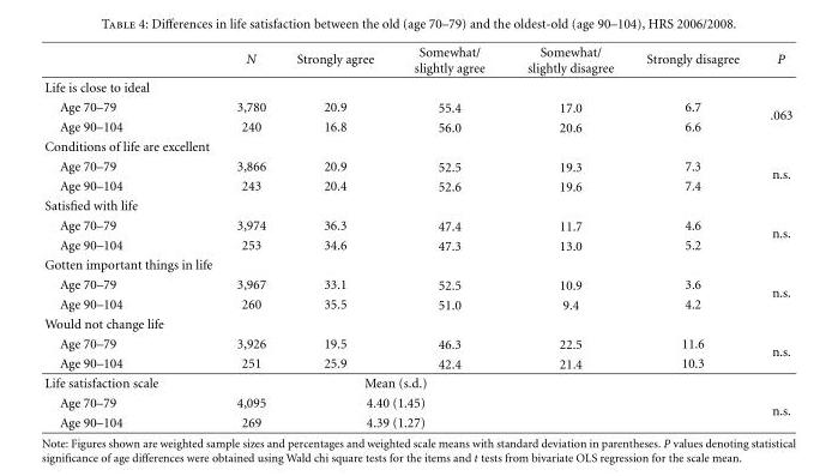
<table><thead><tr><td></td><td>N</td><td>Strongly agree</td><td>Somewhat/ slightly agree</td><td>Somewhat/ slightly disagree</td><td>Strongly disagree</td><td>P</td></tr></thead><tbody><tr><td colspan="7">Life is close to ideal</td></tr><tr><td>Age 70–79</td><td>3,780</td><td>20.9</td><td>55.4</td><td>17.0</td><td>6.7</td><td rowspan="2">.063</td></tr><tr><td>Age 90–104</td><td>240</td><td>16.8</td><td>56.0</td><td>20.6</td><td>6.6</td></tr><tr><td colspan="7">Conditions of life are excellent</td></tr><tr><td>Age 70–79</td><td>3,866</td><td>20.9</td><td>52.5</td><td>19.3</td><td>7.3</td><td rowspan="2">n.s.</td></tr><tr><td>Age 90–104</td><td>243</td><td>20.4</td><td>52.6</td><td>19.6</td><td>7.4</td></tr><tr><td colspan="7">Satisfied with life</td></tr><tr><td>Age 70–79</td><td>3,974</td><td>36.3</td><td>47.4</td><td>11.7</td><td>4.6</td><td rowspan="2">n.s.</td></tr><tr><td>Age 90–104</td><td>253</td><td>34.6</td><td>47.3</td><td>13.0</td><td>5.2</td></tr><tr><td colspan="7">Gotten important things in life</td></tr><tr><td>Age 70–79</td><td>3,967</td><td>33.1</td><td>52.5</td><td>10.9</td><td>3.6</td><td rowspan="2">n.s.</td></tr><tr><td>Age 90–104</td><td>260</td><td>35.5</td><td>51.0</td><td>9.4</td><td>4.2</td></tr><tr><td colspan="7">Would not change life</td></tr><tr><td>Age 70–79</td><td>3,926</td><td>19.5</td><td>46.3</td><td>22.5</td><td>11.6</td><td rowspan="2">n.s.</td></tr><tr><td>Age 90–104</td><td>251</td><td>25.9</td><td>42.4</td><td>21.4</td><td>10.3</td></tr><tr><td>Life satisfaction scale</td><td></td><td colspan="2">Mean (s.d.)</td><td></td><td></td><td></td></tr><tr><td>Age 70–79</td><td>4,095</td><td colspan="2">4.40 (1.45)</td><td></td><td></td><td rowspan="2">n.s.</td></tr><tr><td>Age 90–104</td><td>269</td><td colspan="2">4.39 (1.27)</td><td></td><td></td></tr></tbody></table>